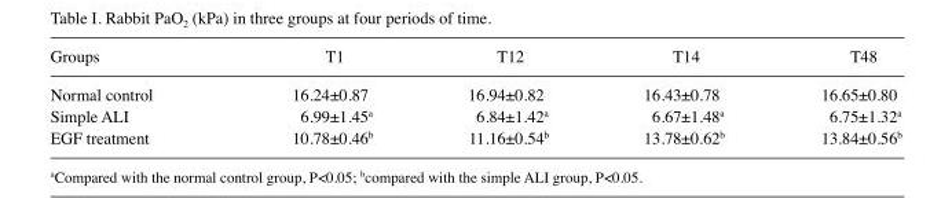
<table><thead><tr><td>Groups</td><td>T1</td><td>T12</td><td>T14</td><td>T48</td></tr></thead><tbody><tr><td>Normal control</td><td>16.24±0.87</td><td>16.94±0.82</td><td>16.43±0.78</td><td>16.65±0.80</td></tr><tr><td>Simple ALI</td><td>6.99±1.45<sup>a</sup></td><td>6.84±1.42<sup>a</sup></td><td>6.67±1.48<sup>a</sup></td><td>6.75±1.32<sup>a</sup></td></tr><tr><td>EGF treatment</td><td>10.78±0.46<sup>b</sup></td><td>11.16±0.54<sup>b</sup></td><td>13.78±0.62<sup>b</sup></td><td>13.84±0.56<sup>b</sup></td></tr></tbody></table>